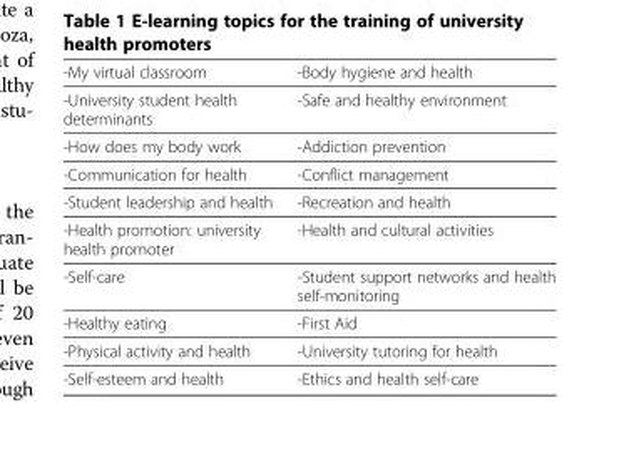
<table><tbody><tr><td>-My virtual classroom</td><td>-Body hygiene and health</td></tr><tr><td>-University student health determinants</td><td>-Safe and healthy environment</td></tr><tr><td>-How does my body work</td><td>-Addiction prevention</td></tr><tr><td>-Communication for health</td><td>-Conflict management</td></tr><tr><td>-Student leadership and health</td><td>-Recreation and health</td></tr><tr><td>-Health promotion: university health promoter</td><td>-Health and cultural activities</td></tr><tr><td>-Self-care</td><td>-Student support networks and health self-monitoring</td></tr><tr><td>-Healthy eating</td><td>-First Aid</td></tr><tr><td>-Physical activity and health</td><td>-University tutoring for health</td></tr><tr><td>-Self-esteem and health</td><td>-Ethics and health self-care</td></tr></tbody></table>